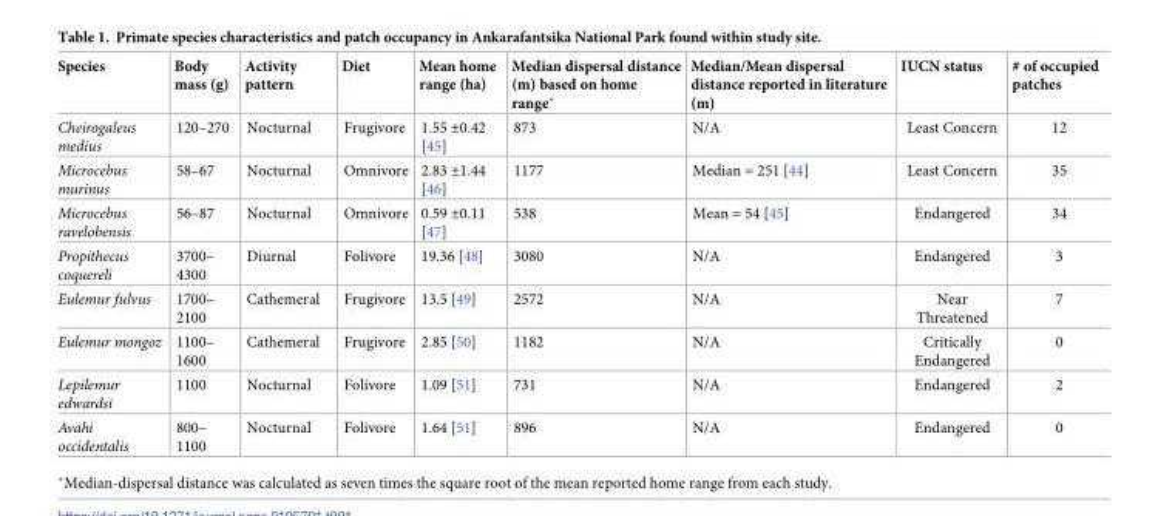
<table><thead><tr><td>Species</td><td>Body mass (g)</td><td>Activity pattern</td><td>Diet</td><td>Mean home range (ha)</td><td>Median dispersal distance (m) based on home range*</td><td>Median/Mean dispersal distance reported in literature (m)</td><td>IUCN status</td><td># of occupied patches</td></tr></thead><tbody><tr><td>Cheirogaleus medius</td><td>120–270</td><td>Nocturnal</td><td>Frugivore</td><td>1.55 ±0.42 [45]</td><td>873</td><td>N/A</td><td>Least Concern</td><td>12</td></tr><tr><td>Microcebus murinus</td><td>58–67</td><td>Nocturnal</td><td>Omnivore</td><td>2.83 ±1.44 [46]</td><td>1177</td><td>Median = 251 [44]</td><td>Least Concern</td><td>35</td></tr><tr><td>Microcebus ravelobensis</td><td>56–87</td><td>Nocturnal</td><td>Omnivore</td><td>0.59 ±0.11 [47]</td><td>538</td><td>Mean = 54 [45]</td><td>Endangered</td><td>34</td></tr><tr><td>Propithecus coquereli</td><td>3700– 4300</td><td>Diurnal</td><td>Folivore</td><td>19.36 [48]</td><td>3080</td><td>N/A</td><td>Endangered</td><td>3</td></tr><tr><td>Eulemur fulvus</td><td>1700– 2100</td><td>Cathemeral</td><td>Frugivore</td><td>13.5 [49]</td><td>2572</td><td>N/A</td><td>Near Threatened</td><td>7</td></tr><tr><td>Eulemur mongoz</td><td>1100– 1600</td><td>Cathemeral</td><td>Frugivore</td><td>2.85 [50]</td><td>1182</td><td>N/A</td><td>Critically Endangered</td><td>0</td></tr><tr><td>Lepilemur edwardsi</td><td>1100</td><td>Nocturnal</td><td>Folivore</td><td>1.09 [51]</td><td>731</td><td>N/A</td><td>Endangered</td><td>2</td></tr><tr><td>Avahi occidentalis</td><td>800– 1100</td><td>Nocturnal</td><td>Folivore</td><td>1.64 [51]</td><td>896</td><td>N/A</td><td>Endangered</td><td>0</td></tr></tbody></table>